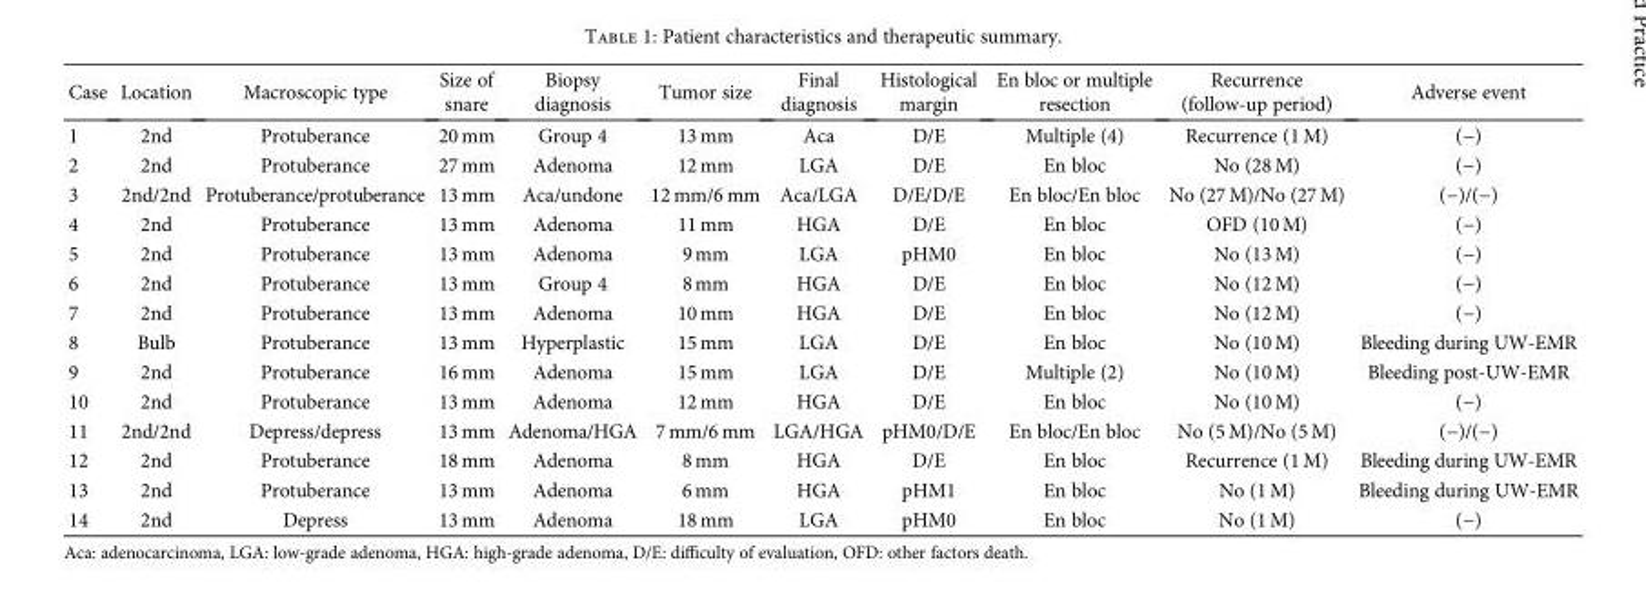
<table><thead><tr><td>Case</td><td>Location</td><td>Macroscopic type</td><td>Size of snare</td><td>Biopsy diagnosis</td><td>Tumor size</td><td>Final diagnosis</td><td>Histological margin</td><td>En bloc or multiple resection</td><td>Recurrence (follow-up period)</td><td>Adverse event</td></tr></thead><tbody><tr><td>1</td><td>2nd</td><td>Protuberance</td><td>20 mm</td><td>Group 4</td><td>13 mm</td><td>Aca</td><td>D/E</td><td>Multiple (4)</td><td>Recurrence (1 M)</td><td>(−)</td></tr><tr><td>2</td><td>2nd</td><td>Protuberance</td><td>27 mm</td><td>Adenoma</td><td>12 mm</td><td>LGA</td><td>D/E</td><td>En bloc</td><td>No (28 M)</td><td>(−)</td></tr><tr><td>3</td><td>2nd/2nd</td><td>Protuberance/protuberance</td><td>13 mm</td><td>Aca/undone</td><td>12 mm/6 mm</td><td>Aca/LGA</td><td>D/E/D/E</td><td>En bloc/En bloc</td><td>No (27 M)/No (27 M)</td><td>(−)/(−)</td></tr><tr><td>4</td><td>2nd</td><td>Protuberance</td><td>13 mm</td><td>Adenoma</td><td>11 mm</td><td>HGA</td><td>D/E</td><td>En bloc</td><td>OFD (10 M)</td><td>(−)</td></tr><tr><td>5</td><td>2nd</td><td>Protuberance</td><td>13 mm</td><td>Adenoma</td><td>9 mm</td><td>LGA</td><td>pHM0</td><td>En bloc</td><td>No (13 M)</td><td>(−)</td></tr><tr><td>6</td><td>2nd</td><td>Protuberance</td><td>13 mm</td><td>Group 4</td><td>8 mm</td><td>HGA</td><td>D/E</td><td>En bloc</td><td>No (12 M)</td><td>(−)</td></tr><tr><td>7</td><td>2nd</td><td>Protuberance</td><td>13 mm</td><td>Adenoma</td><td>10 mm</td><td>HGA</td><td>D/E</td><td>En bloc</td><td>No (12 M)</td><td>(−)</td></tr><tr><td>8</td><td>Bulb</td><td>Protuberance</td><td>13 mm</td><td>Hyperplastic</td><td>15 mm</td><td>LGA</td><td>D/E</td><td>En bloc</td><td>No (10 M)</td><td>Bleeding during UW-EMR</td></tr><tr><td>9</td><td>2nd</td><td>Protuberance</td><td>16 mm</td><td>Adenoma</td><td>15 mm</td><td>LGA</td><td>D/E</td><td>Multiple (2)</td><td>No (10 M)</td><td>Bleeding post-UW-EMR</td></tr><tr><td>10</td><td>2nd</td><td>Protuberance</td><td>13 mm</td><td>Adenoma</td><td>12 mm</td><td>HGA</td><td>D/E</td><td>En bloc</td><td>No (10 M)</td><td>(−)</td></tr><tr><td>11</td><td>2nd/2nd</td><td>Depress/depress</td><td>13 mm</td><td>Adenoma/HGA</td><td>7 mm/6 mm</td><td>LGA/HGA</td><td>pHM0/D/E</td><td>En bloc/En bloc</td><td>No (5 M)/No (5 M)</td><td>(−)/(−)</td></tr><tr><td>12</td><td>2nd</td><td>Protuberance</td><td>18 mm</td><td>Adenoma</td><td>8 mm</td><td>HGA</td><td>D/E</td><td>En bloc</td><td>Recurrence (1 M)</td><td>Bleeding during UW-EMR</td></tr><tr><td>13</td><td>2nd</td><td>Protuberance</td><td>13 mm</td><td>Adenoma</td><td>6 mm</td><td>HGA</td><td>pHM1</td><td>En bloc</td><td>No (1 M)</td><td>Bleeding during UW-EMR</td></tr><tr><td>14</td><td>2nd</td><td>Depress</td><td>13 mm</td><td>Adenoma</td><td>18 mm</td><td>LGA</td><td>pHM0</td><td>En bloc</td><td>No (1 M)</td><td>(−)</td></tr></tbody></table>